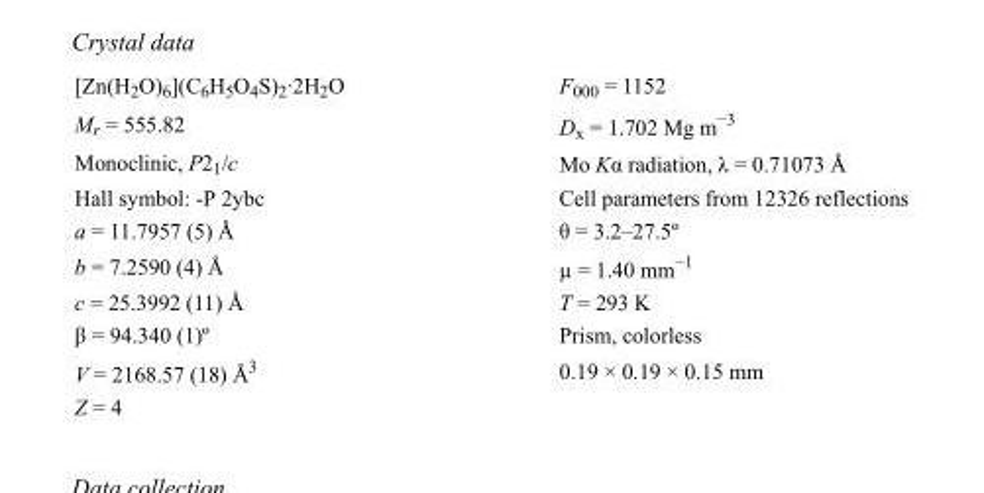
<table><tbody><tr><td>[Zn(H<sub>2</sub>O)<sub>6</sub>](C<sub>6</sub>H<sub>5</sub>O<sub>4</sub>S)<sub>2</sub>·2H<sub>2</sub>O</td><td>F000 = 1152</td></tr><tr><td>M<sub>r</sub> = 555.82</td><td>D<sub>x</sub> = 1.702 Mg m<sup>−3</sup></td></tr><tr><td>Monoclinic, P2<sub>1</sub>/c</td><td>Mo Kα radiation, λ = 0.71073 Å</td></tr><tr><td>Hall symbol: -P 2ybc</td><td>Cell parameters from 12326 reflections</td></tr><tr><td>a = 11.7957 (5) Å</td><td>θ = 3.2–27.5º</td></tr><tr><td>b = 7.2590 (4) Å</td><td>µ = 1.40 mm<sup>−1</sup></td></tr><tr><td>c = 25.3992 (11) Å</td><td>T = 293 K</td></tr><tr><td>β = 94.340 (1)º</td><td>Prism, colorless</td></tr><tr><td>V = 2168.57 (18) Å<sup>3</sup></td><td>0.19 × 0.19 × 0.15 mm</td></tr><tr><td>Z = 4</td><td></td></tr></tbody></table>